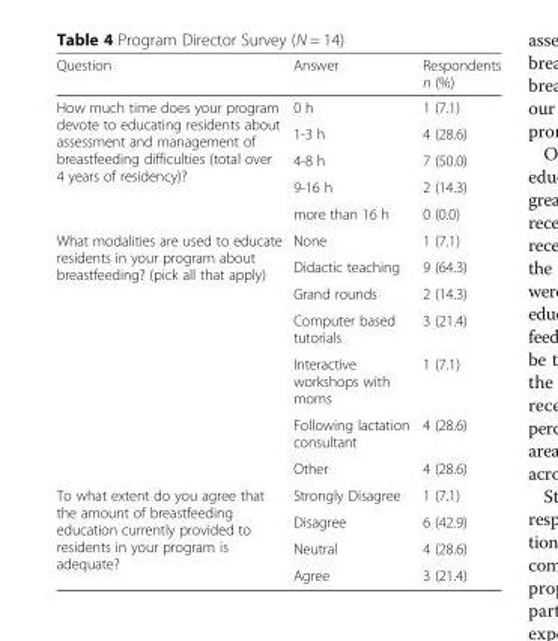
<table><thead><tr><td>Question</td><td>Answer</td><td>Respondents n (%)</td></tr></thead><tbody><tr><td rowspan="5">How much time does your program devote to educating residents about assessment and management of breastfeeding difficulties (total over 4 years of residency)?</td><td>0 h</td><td>1 (7.1)</td></tr><tr><td>1-3 h</td><td>4 (28.6)</td></tr><tr><td>4-8 h</td><td>7 (50.0)</td></tr><tr><td>9-16 h</td><td>2 (14.3)</td></tr><tr><td>more than 16 h</td><td>0 (0.0)</td></tr><tr><td rowspan="7">What modalities are used to educate residents in your program about breastfeeding? (pick all that apply)</td><td>None</td><td>1 (7.1)</td></tr><tr><td>Didactic teaching</td><td>9 (64.3)</td></tr><tr><td>Grand rounds</td><td>2 (14.3)</td></tr><tr><td>Computer based tutorials</td><td>3 (21.4)</td></tr><tr><td>Interactive workshops with moms</td><td>1 (7.1)</td></tr><tr><td>Following lactation consultant</td><td>4 (28.6)</td></tr><tr><td>Other</td><td>4 (28.6)</td></tr><tr><td rowspan="4">To what extent do you agree that the amount of breastfeeding education currently provided to residents in your program is adequate?</td><td>Strongly Disagree</td><td>1 (7.1)</td></tr><tr><td>Disagree</td><td>6 (42.9)</td></tr><tr><td>Neutral</td><td>4 (28.6)</td></tr><tr><td>Agree</td><td>3 (21.4)</td></tr></tbody></table>